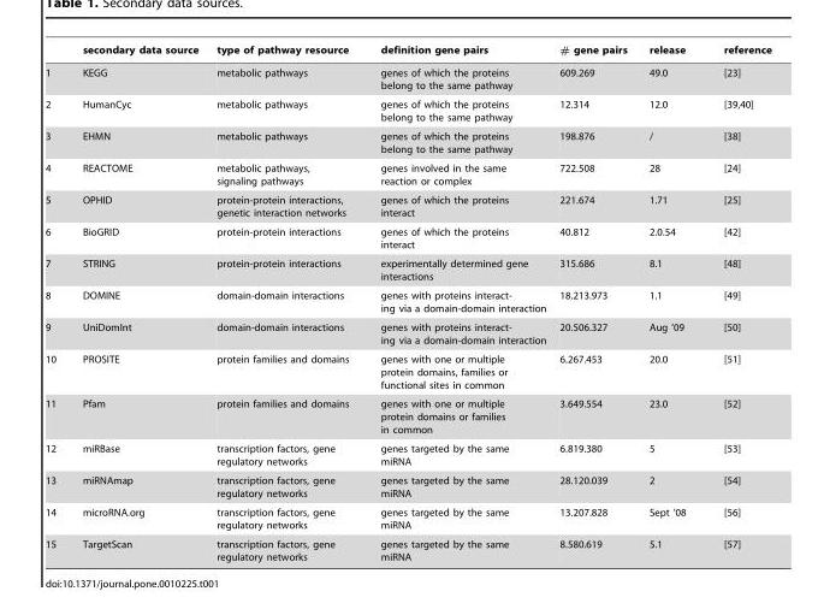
<table><thead><tr><td></td><td>secondary data source</td><td>type of pathway resource</td><td>definition gene pairs</td><td># gene pairs</td><td>release</td><td>reference</td></tr></thead><tbody><tr><td>1</td><td>KEGG</td><td>metabolic pathways</td><td>genes of which the proteins belong to the same pathway</td><td>609.269</td><td>49.0</td><td>[23]</td></tr><tr><td>2</td><td>HumanCyc</td><td>metabolic pathways</td><td>genes of which the proteins belong to the same pathway</td><td>12.314</td><td>12.0</td><td>[39,40]</td></tr><tr><td>3</td><td>EHMN</td><td>metabolic pathways</td><td>genes of which the proteins belong to the same pathway</td><td>198.876</td><td>/</td><td>[38]</td></tr><tr><td>4</td><td>REACTOME</td><td>metabolic pathways, signaling pathways</td><td>genes involved in the same reaction or complex</td><td>722.508</td><td>28</td><td>[24]</td></tr><tr><td>5</td><td>OPHID</td><td>protein-protein interactions, genetic interaction networks</td><td>genes of which the proteins interact</td><td>221.674</td><td>1.71</td><td>[25]</td></tr><tr><td>6</td><td>BioGRID</td><td>protein-protein interactions</td><td>genes of which the proteins interact</td><td>40.812</td><td>2.0.54</td><td>[42]</td></tr><tr><td>7</td><td>STRING</td><td>protein-protein interactions</td><td>experimentally determined gene interactions</td><td>315.686</td><td>8.1</td><td>[48]</td></tr><tr><td>8</td><td>DOMINE</td><td>domain-domain interactions</td><td>genes with proteins interact- ing via a domain-domain interaction</td><td>18.213.973</td><td>1.1</td><td>[49]</td></tr><tr><td>9</td><td>UniDomInt</td><td>domain-domain interactions</td><td>genes with proteins interact- ing via a domain-domain interaction</td><td>20.506.327</td><td>Aug ’09</td><td>[50]</td></tr><tr><td>10</td><td>PROSITE</td><td>protein families and domains</td><td>genes with one or multiple protein domains, families or functional sites in common</td><td>6.267.453</td><td>20.0</td><td>[51]</td></tr><tr><td>11</td><td>Pfam</td><td>protein families and domains</td><td>genes with one or multiple protein domains or families in common</td><td>3.649.554</td><td>23.0</td><td>[52]</td></tr><tr><td>12</td><td>miRBase</td><td>transcription factors, gene regulatory networks</td><td>genes targeted by the same miRNA</td><td>6.819.380</td><td>5</td><td>[53]</td></tr><tr><td>13</td><td>miRNAmap</td><td>transcription factors, gene regulatory networks</td><td>genes targeted by the same miRNA</td><td>28.120.039</td><td>2</td><td>[54]</td></tr><tr><td>14</td><td>microRNA.org</td><td>transcription factors, gene regulatory networks</td><td>genes targeted by the same miRNA</td><td>13.207.828</td><td>Sept ’08</td><td>[56]</td></tr><tr><td>15</td><td>TargetScan</td><td>transcription factors, gene regulatory networks</td><td>genes targeted by the same miRNA</td><td>8.580.619</td><td>5.1</td><td>[57]</td></tr></tbody></table>